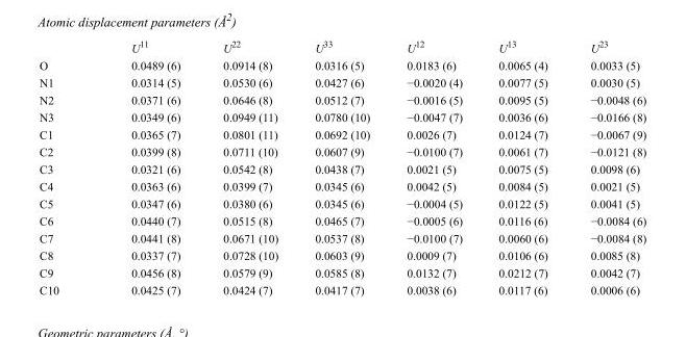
<table><thead><tr><td></td><td>U<sup>11</sup></td><td>U<sup>22</sup></td><td>U<sup>33</sup></td><td>U<sup>12</sup></td><td>U<sup>13</sup></td><td>U<sup>23</sup></td></tr></thead><tbody><tr><td>O</td><td>0.0489 (6)</td><td>0.0914 (8)</td><td>0.0316 (5)</td><td>0.0183 (6)</td><td>0.0065 (4)</td><td>0.0033 (5)</td></tr><tr><td>N1</td><td>0.0314 (5)</td><td>0.0530 (6)</td><td>0.0427 (6)</td><td>−0.0020 (4)</td><td>0.0077 (5)</td><td>0.0030 (5)</td></tr><tr><td>N2</td><td>0.0371 (6)</td><td>0.0646 (8)</td><td>0.0512 (7)</td><td>−0.0016 (5)</td><td>0.0095 (5)</td><td>−0.0048 (6)</td></tr><tr><td>N3</td><td>0.0349 (6)</td><td>0.0949 (11)</td><td>0.0780 (10)</td><td>−0.0047 (7)</td><td>0.0036 (6)</td><td>−0.0166 (8)</td></tr><tr><td>C1</td><td>0.0365 (7)</td><td>0.0801 (11)</td><td>0.0692 (10)</td><td>0.0026 (7)</td><td>0.0124 (7)</td><td>−0.0067 (9)</td></tr><tr><td>C2</td><td>0.0399 (8)</td><td>0.0711 (10)</td><td>0.0607 (9)</td><td>−0.0100 (7)</td><td>0.0061 (7)</td><td>−0.0121 (8)</td></tr><tr><td>C3</td><td>0.0321 (6)</td><td>0.0542 (8)</td><td>0.0438 (7)</td><td>0.0021 (5)</td><td>0.0075 (5)</td><td>0.0098 (6)</td></tr><tr><td>C4</td><td>0.0363 (6)</td><td>0.0399 (7)</td><td>0.0345 (6)</td><td>0.0042 (5)</td><td>0.0084 (5)</td><td>0.0021 (5)</td></tr><tr><td>C5</td><td>0.0347 (6)</td><td>0.0380 (6)</td><td>0.0345 (6)</td><td>−0.0004 (5)</td><td>0.0122 (5)</td><td>0.0041 (5)</td></tr><tr><td>C6</td><td>0.0440 (7)</td><td>0.0515 (8)</td><td>0.0465 (7)</td><td>−0.0005 (6)</td><td>0.0116 (6)</td><td>−0.0084 (6)</td></tr><tr><td>C7</td><td>0.0441 (8)</td><td>0.0671 (10)</td><td>0.0537 (8)</td><td>−0.0100 (7)</td><td>0.0060 (6)</td><td>−0.0084 (8)</td></tr><tr><td>C8</td><td>0.0337 (7)</td><td>0.0728 (10)</td><td>0.0603 (9)</td><td>0.0009 (7)</td><td>0.0106 (6)</td><td>0.0085 (8)</td></tr><tr><td>C9</td><td>0.0456 (8)</td><td>0.0579 (9)</td><td>0.0585 (8)</td><td>0.0132 (7)</td><td>0.0212 (7)</td><td>0.0042 (7)</td></tr><tr><td>C10</td><td>0.0425 (7)</td><td>0.0424 (7)</td><td>0.0417 (7)</td><td>0.0038 (6)</td><td>0.0117 (6)</td><td>0.0006 (6)</td></tr></tbody></table>